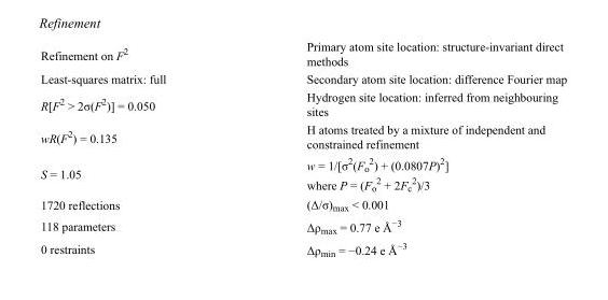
<table><tbody><tr><td>Refinement on F<sup>2</sup></td><td>Primary atom site location: structure-invariant direct methods</td></tr><tr><td>Least-squares matrix: full</td><td>Secondary atom site location: difference Fourier map</td></tr><tr><td>R[F<sup>2</sup> &gt; 2σ(F<sup>2</sup>)] = 0.050</td><td>Hydrogen site location: inferred from neighbouring sites</td></tr><tr><td>wR(F<sup>2</sup>) = 0.135</td><td>H atoms treated by a mixture of independent and constrained refinement</td></tr><tr><td>S = 1.05</td><td>w = 1/[σ<sup>2</sup>(F<sub>o</sub> <sup>2</sup>) + (0.0807P)<sup>2</sup>] where P = (F<sub>o</sub> <sup>2</sup> + 2F<sub>c</sub> <sup>2</sup>)/3</td></tr><tr><td>1720 reflections</td><td>(Δ/σ)<sub>max</sub> &lt; 0.001</td></tr><tr><td>118 parameters</td><td>Δρ<sub>max</sub> = 0.77 e Å<sup>−3</sup></td></tr><tr><td>0 restraints</td><td>Δρ<sub>min</sub> = −0.24 e Å<sup>−3</sup></td></tr></tbody></table>